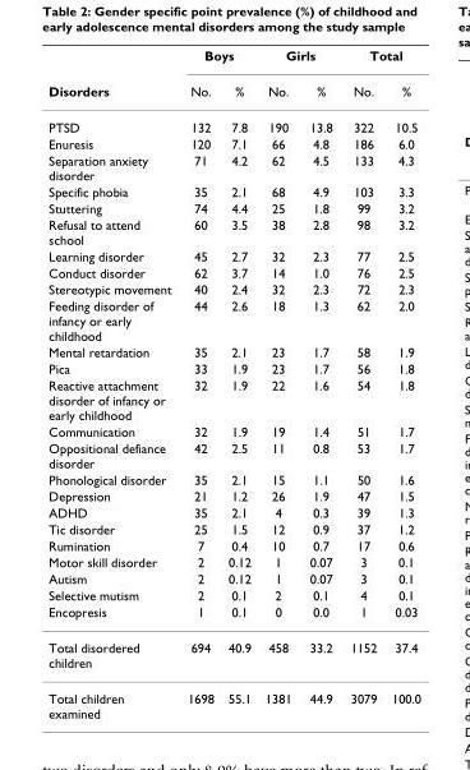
<table><thead><tr><td rowspan="2">Disorders</td><td colspan="2">Boys</td><td colspan="2">Girls</td><td colspan="2">Total</td></tr><tr><td>No.</td><td>%</td><td>No.</td><td>%</td><td>No.</td><td>%</td></tr></thead><tbody><tr><td>PTSD</td><td>132</td><td>7.8</td><td>190</td><td>13.8</td><td>322</td><td>10.5</td></tr><tr><td>Enuresis</td><td>120</td><td>7.1</td><td>66</td><td>4.8</td><td>186</td><td>6.0</td></tr><tr><td>Separation anxiety disorder</td><td>71</td><td>4.2</td><td>62</td><td>4.5</td><td>133</td><td>4.3</td></tr><tr><td>Specific phobia</td><td>35</td><td>2.1</td><td>68</td><td>4.9</td><td>103</td><td>3.3</td></tr><tr><td>Stuttering</td><td>74</td><td>4.4</td><td>25</td><td>1.8</td><td>99</td><td>3.2</td></tr><tr><td>Refusal to attend school</td><td>60</td><td>3.5</td><td>38</td><td>2.8</td><td>98</td><td>3.2</td></tr><tr><td>Learning disorder</td><td>45</td><td>2.7</td><td>32</td><td>2.3</td><td>77</td><td>2.5</td></tr><tr><td>Conduct disorder</td><td>62</td><td>3.7</td><td>14</td><td>1.0</td><td>76</td><td>2.5</td></tr><tr><td>Stereotypic movement</td><td>40</td><td>2.4</td><td>32</td><td>2.3</td><td>72</td><td>2.3</td></tr><tr><td>Feeding disorder of infancy or early childhood</td><td>44</td><td>2.6</td><td>18</td><td>1.3</td><td>62</td><td>2.0</td></tr><tr><td>Mental retardation</td><td>35</td><td>2.1</td><td>23</td><td>1.7</td><td>58</td><td>1.9</td></tr><tr><td>Pica</td><td>33</td><td>1.9</td><td>23</td><td>1.7</td><td>56</td><td>1.8</td></tr><tr><td>Reactive attachment disorder of infancy or early childhood</td><td>32</td><td>1.9</td><td>22</td><td>1.6</td><td>54</td><td>1.8</td></tr><tr><td>Communication</td><td>32</td><td>1.9</td><td>19</td><td>1.4</td><td>51</td><td>1.7</td></tr><tr><td>Oppositional defiance disorder</td><td>42</td><td>2.5</td><td>11</td><td>0.8</td><td>53</td><td>1.7</td></tr><tr><td>Phonological disorder</td><td>35</td><td>2.1</td><td>15</td><td>1.1</td><td>50</td><td>1.6</td></tr><tr><td>Depression</td><td>21</td><td>1.2</td><td>26</td><td>1.9</td><td>47</td><td>1.5</td></tr><tr><td>ADHD</td><td>35</td><td>2.1</td><td>4</td><td>0.3</td><td>39</td><td>1.3</td></tr><tr><td>Tic disorder</td><td>25</td><td>1.5</td><td>12</td><td>0.9</td><td>37</td><td>1.2</td></tr><tr><td>Rumination</td><td>7</td><td>0.4</td><td>10</td><td>0.7</td><td>17</td><td>0.6</td></tr><tr><td>Motor skill disorder</td><td>2</td><td>0.12</td><td>1</td><td>0.07</td><td>3</td><td>0.1</td></tr><tr><td>Autism</td><td>2</td><td>0.12</td><td>1</td><td>0.07</td><td>3</td><td>0.1</td></tr><tr><td>Selective mutism</td><td>2</td><td>0.1</td><td>2</td><td>0.1</td><td>4</td><td>0.1</td></tr><tr><td>Encopresis</td><td>1</td><td>0.1</td><td>0</td><td>0.0</td><td>1</td><td>0.03</td></tr><tr><td>Total disordered children</td><td>694</td><td>40.9</td><td>458</td><td>33.2</td><td>1152</td><td>37.4</td></tr><tr><td>Total children examined</td><td>1698</td><td>55.1</td><td>1381</td><td>44.9</td><td>3079</td><td>100.0</td></tr></tbody></table>